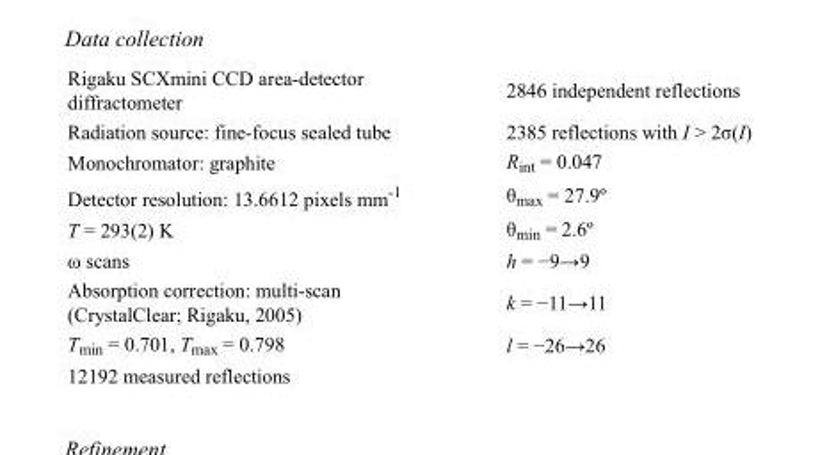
<table><tbody><tr><td>Rigaku SCXmini CCD area-detector diffractometer</td><td>2846 independent reflections</td></tr><tr><td>Radiation source: fine-focus sealed tube</td><td>2385 reflections with I &gt; 2σ(I)</td></tr><tr><td>Monochromator: graphite</td><td>R<sub>int</sub> = 0.047</td></tr><tr><td>Detector resolution: 13.6612 pixels mm<sup>-1</sup></td><td>θ<sub>max</sub> = 27.9º</td></tr><tr><td>T = 293(2) K</td><td>θ<sub>min</sub> = 2.6º</td></tr><tr><td>ω scans</td><td>h = −9→9</td></tr><tr><td>Absorption correction: multi-scan (CrystalClear; Rigaku, 2005)</td><td>k = −11→11</td></tr><tr><td>T<sub>min</sub> = 0.701, T<sub>max</sub> = 0.798</td><td>l = −26→26</td></tr><tr><td>12192 measured reflections</td><td></td></tr></tbody></table>